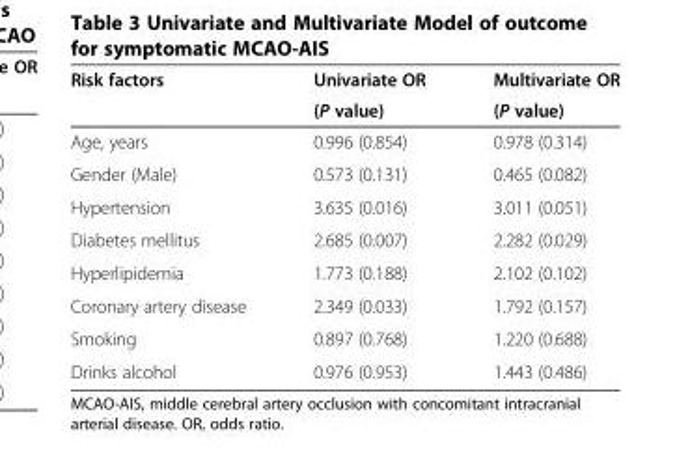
<table><thead><tr><td rowspan="2">Risk factors</td><td rowspan="2">Univariate OR (P value)</td><td rowspan="2">Multivariate OR (P value)</td></tr><tr></tr></thead><tbody><tr><td>Age, years</td><td>0.996 (0.854)</td><td>0.978 (0.314)</td></tr><tr><td>Gender (Male)</td><td>0.573 (0.131)</td><td>0.465 (0.082)</td></tr><tr><td>Hypertension</td><td>3.635 (0.016)</td><td>3.011 (0.051)</td></tr><tr><td>Diabetes mellitus</td><td>2.685 (0.007)</td><td>2.282 (0.029)</td></tr><tr><td>Hyperlipidemia</td><td>1.773 (0.188)</td><td>2.102 (0.102)</td></tr><tr><td>Coronary artery disease</td><td>2.349 (0.033)</td><td>1.792 (0.157)</td></tr><tr><td>Smoking</td><td>0.897 (0.768)</td><td>1.220 (0.688)</td></tr><tr><td>Drinks alcohol</td><td>0.976 (0.953)</td><td>1.443 (0.486)</td></tr></tbody></table>